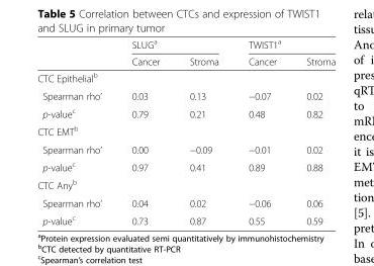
<table><thead><tr><td rowspan="2"></td><td colspan="2">SLUG<sup>a</sup></td><td colspan="2">TWIST1<sup>a</sup></td></tr><tr><td>Cancer</td><td>Stroma</td><td>Cancer</td><td>Stroma</td></tr></thead><tbody><tr><td colspan="5">CTC Epithelial<sup>b</sup></td></tr><tr><td>Spearman rho’</td><td>0.03</td><td>0.13</td><td>−0.07</td><td>0.02</td></tr><tr><td>p-value<sup>c</sup></td><td>0.79</td><td>0.21</td><td>0.48</td><td>0.82</td></tr><tr><td colspan="5">CTC EMT<sup>b</sup></td></tr><tr><td>Spearman rho’</td><td>0.00</td><td>−0.09</td><td>−0.01</td><td>0.02</td></tr><tr><td>p-value<sup>c</sup></td><td>0.97</td><td>0.41</td><td>0.89</td><td>0.88</td></tr><tr><td colspan="5">CTC Any<sup>b</sup></td></tr><tr><td>Spearman rho’</td><td>0.04</td><td>0.02</td><td>−0.06</td><td>0.06</td></tr><tr><td>p-value<sup>c</sup></td><td>0.73</td><td>0.87</td><td>0.55</td><td>0.59</td></tr></tbody></table>